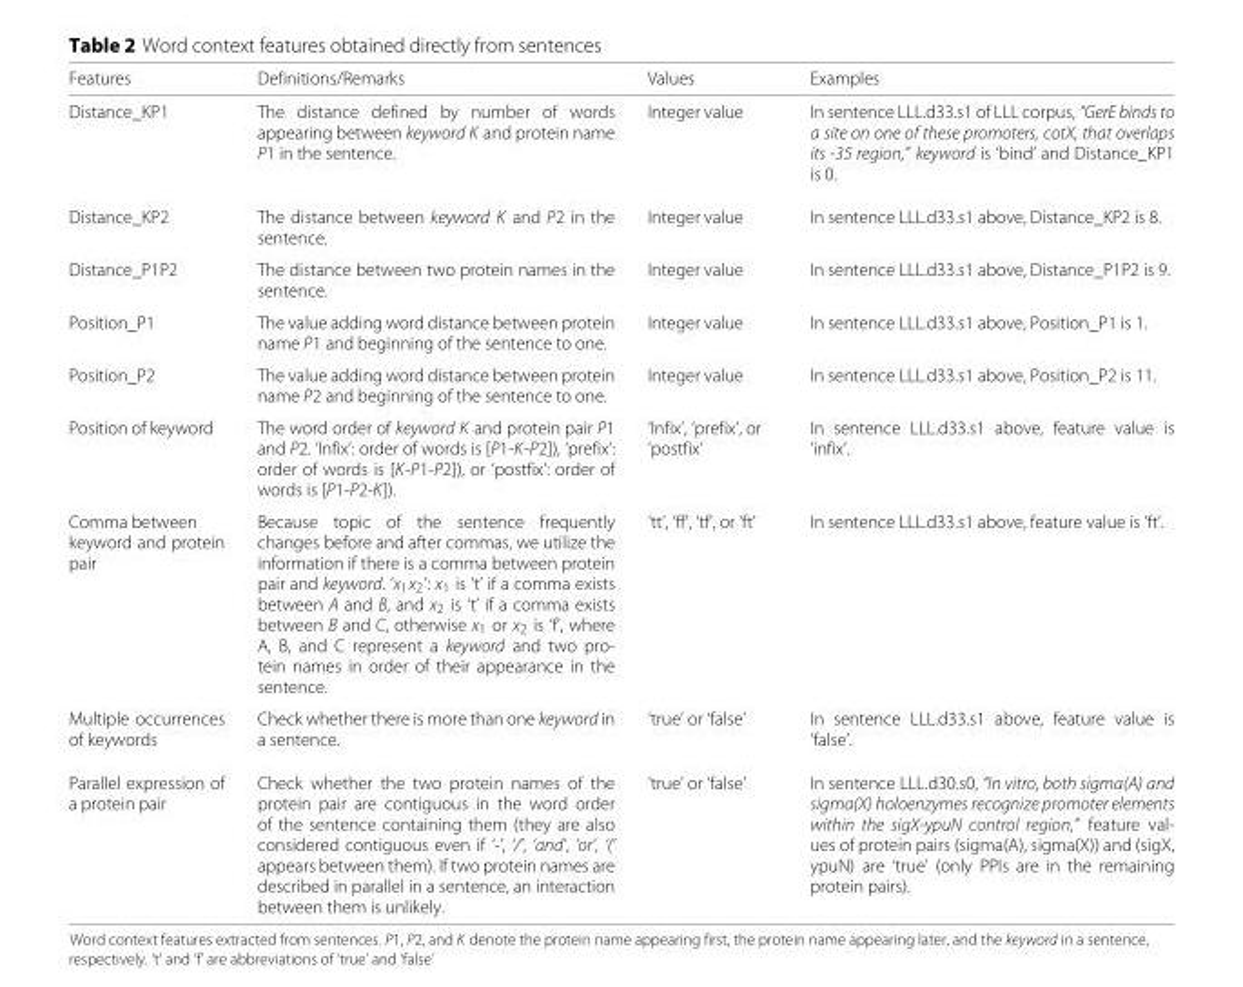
<table><thead><tr><td>Features</td><td>Definitions/Remarks</td><td>Values</td><td>Examples</td></tr></thead><tbody><tr><td>Distance_KP1</td><td>The distance defined by number of words appearing between keyword K and protein name P1 in the sentence.</td><td>Integer value</td><td>In sentence LLL.d33.s1 of LLL corpus, “GerE binds to a site on one of these promoters, cotX, that overlaps its -35 region,” keyword is ‘bind’ and Distance_KP1 is 0.</td></tr><tr><td>Distance_KP2</td><td>The distance between keyword K and P2 in the sentence.</td><td>Integer value</td><td>In sentence LLL.d33.s1 above, Distance_KP2 is 8.</td></tr><tr><td>Distance_P1P2</td><td>The distance between two protein names in the sentence.</td><td>Integer value</td><td>In sentence LLL.d33.s1 above, Distance_P1P2 is 9.</td></tr><tr><td>Position_P1</td><td>The value adding word distance between protein name P1 and beginning of the sentence to one.</td><td>Integer value</td><td>In sentence LLL.d33.s1 above, Position_P1 is 1.</td></tr><tr><td>Position_P2</td><td>The value adding word distance between protein name P2 and beginning of the sentence to one.</td><td>Integer value</td><td>In sentence LLL.d33.s1 above, Position_P2 is 11.</td></tr><tr><td>Position of keyword</td><td>The word order of keyword K and protein pair P1 and P2. ‘Infix’: order of words is [P1-K-P2]), ‘prefix’: order of words is [K-P1-P2]), or ‘postfix’: order of words is [P1-P2-K]).</td><td>‘Infix’, ‘prefix’, or ‘postfix’</td><td>In sentence LLL.d33.s1 above, feature value is ‘infix’.</td></tr><tr><td>Comma between keyword and protein pair</td><td>Because topic of the sentence frequently changes before and after commas, we utilize the information if there is a comma between protein pair and keyword. ‘x1x2’: x1 is ‘t’ if a comma exists between A and B, and x2 is ‘t’ if a comma exists between B and C, otherwise x1 or x2 is ‘f’, where A, B, and C represent a keyword and two pro- tein names in order of their appearance in the sentence.</td><td>‘tt’, ‘ff’, ‘tf’, or ‘ft’</td><td>In sentence LLL.d33.s1 above, feature value is ‘ft’.</td></tr><tr><td>Multiple occurrences of keywords</td><td>Check whether there is more than one keyword in a sentence.</td><td>‘true’ or ‘false’</td><td>In sentence LLL.d33.s1 above, feature value is ‘false’.</td></tr><tr><td>Parallel expression of a protein pair</td><td>Check whether the two protein names of the protein pair are contiguous in the word order of the sentence containing them (they are also considered contiguous even if ‘-’, ‘/’, ‘and’, ‘or’, ‘(’ appears between them). If two protein names are described in parallel in a sentence, an interaction between them is unlikely.</td><td>‘true’ or ‘false’</td><td>In sentence LLL.d30.s0, “In vitro, both sigma(A) and sigma(X) holoenzymes recognize promoter elements within the sigX-ypuN control region,” feature val- ues of protein pairs (sigma(A), sigma(X)) and (sigX, ypuN) are ‘true’ (only PPIs are in the remaining protein pairs).</td></tr></tbody></table>